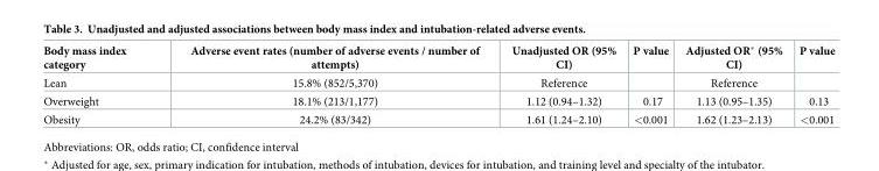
<table><thead><tr><td>Body mass index category</td><td>Adverse event rates (number of adverse events / number of attempts)</td><td>Unadjusted OR (95% CI)</td><td>P value</td><td>Adjusted OR* (95% CI)</td><td>P value</td></tr></thead><tbody><tr><td>Lean</td><td>15.8% (852/5,370)</td><td>Reference</td><td></td><td>Reference</td><td></td></tr><tr><td>Overweight</td><td>18.1% (213/1,177)</td><td>1.12 (0.94–1.32)</td><td>0.17</td><td>1.13 (0.95–1.35)</td><td>0.13</td></tr><tr><td>Obesity</td><td>24.2% (83/342)</td><td>1.61 (1.24–2.10)</td><td>&lt;0.001</td><td>1.62 (1.23–2.13)</td><td>&lt;0.001</td></tr></tbody></table>